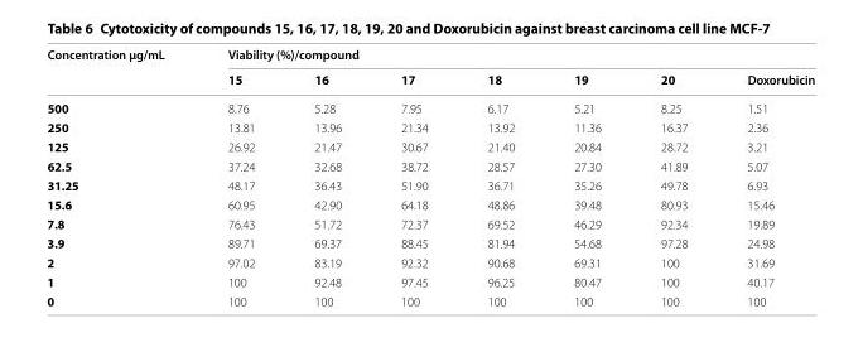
<table><thead><tr><td rowspan="2">Concentration µg/mL</td><td colspan="7">Viability (%)/compound</td></tr><tr><td>15</td><td>16</td><td>17</td><td>18</td><td>19</td><td>20</td><td>Doxorubicin</td></tr></thead><tbody><tr><td>500</td><td>8.76</td><td>5.28</td><td>7.95</td><td>6.17</td><td>5.21</td><td>8.25</td><td>1.51</td></tr><tr><td>250</td><td>13.81</td><td>13.96</td><td>21.34</td><td>13.92</td><td>11.36</td><td>16.37</td><td>2.36</td></tr><tr><td>125</td><td>26.92</td><td>21.47</td><td>30.67</td><td>21.40</td><td>20.84</td><td>28.72</td><td>3.21</td></tr><tr><td>62.5</td><td>37.24</td><td>32.68</td><td>38.72</td><td>28.57</td><td>27.30</td><td>41.89</td><td>5.07</td></tr><tr><td>31.25</td><td>48.17</td><td>36.43</td><td>51.90</td><td>36.71</td><td>35.26</td><td>49.78</td><td>6.93</td></tr><tr><td>15.6</td><td>60.95</td><td>42.90</td><td>64.18</td><td>48.86</td><td>39.48</td><td>80.93</td><td>15.46</td></tr><tr><td>7.8</td><td>76.43</td><td>51.72</td><td>72.37</td><td>69.52</td><td>46.29</td><td>92.34</td><td>19.89</td></tr><tr><td>3.9</td><td>89.71</td><td>69.37</td><td>88.45</td><td>81.94</td><td>54.68</td><td>97.28</td><td>24.98</td></tr><tr><td>2</td><td>97.02</td><td>83.19</td><td>92.32</td><td>90.68</td><td>69.31</td><td>100</td><td>31.69</td></tr><tr><td>1</td><td>100</td><td>92.48</td><td>97.45</td><td>96.25</td><td>80.47</td><td>100</td><td>40.17</td></tr><tr><td>0</td><td>100</td><td>100</td><td>100</td><td>100</td><td>100</td><td>100</td><td>100</td></tr></tbody></table>